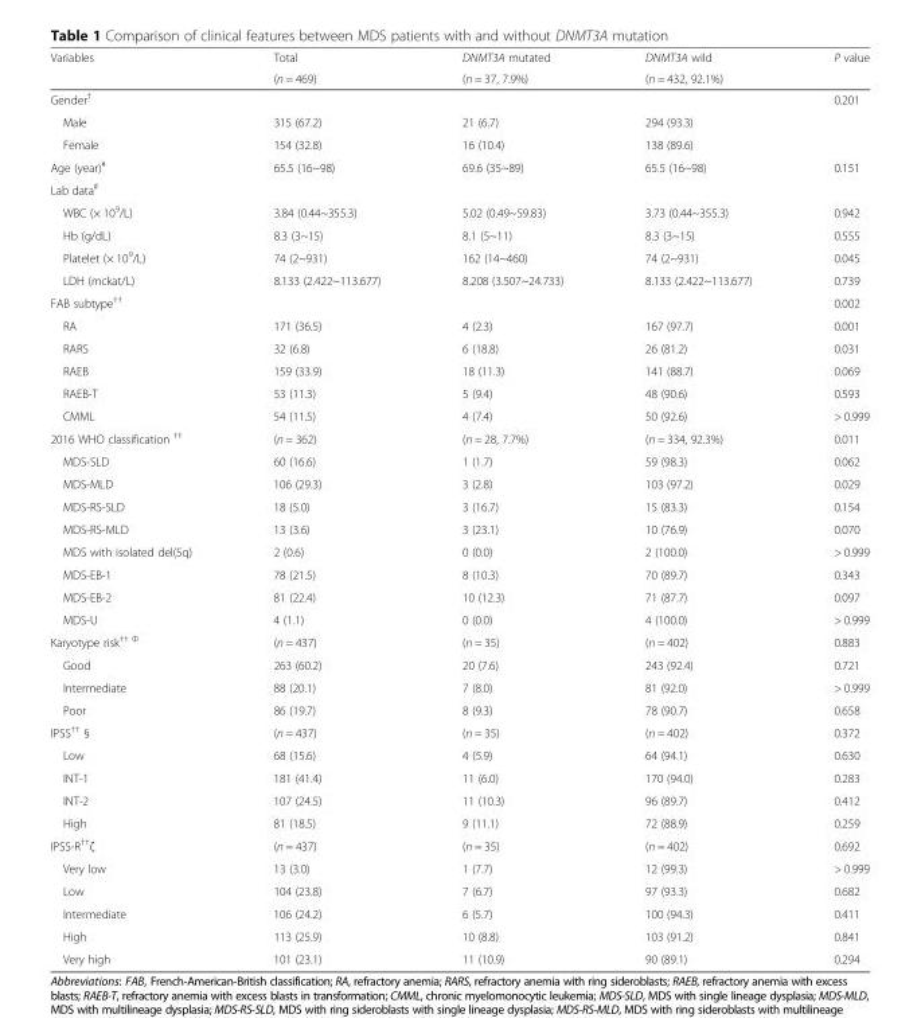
<table><thead><tr><td rowspan="2">Variables</td><td rowspan="2">Total (n = 469)</td><td rowspan="2">DNMT3A mutated (n = 37, 7.9%)</td><td rowspan="2">DNMT3A wild (n = 432, 92.1%)</td><td rowspan="2">P value</td></tr><tr></tr></thead><tbody><tr><td>Gender<sup>†</sup></td><td></td><td></td><td></td><td>0.201</td></tr><tr><td>Male</td><td>315 (67.2)</td><td>21 (6.7)</td><td>294 (93.3)</td><td></td></tr><tr><td>Female</td><td>154 (32.8)</td><td>16 (10.4)</td><td>138 (89.6)</td><td></td></tr><tr><td>Age (year)<sup>#</sup></td><td>65.5 (16~98)</td><td>69.6 (35~89)</td><td>65.5 (16~98)</td><td>0.151</td></tr><tr><td colspan="5">Lab data<sup>#</sup></td></tr><tr><td>WBC (× 10<sup>9</sup>/L)</td><td>3.84 (0.44~355.3)</td><td>5.02 (0.49~59.83)</td><td>3.73 (0.44~355.3)</td><td>0.942</td></tr><tr><td>Hb (g/dL)</td><td>8.3 (3~15)</td><td>8.1 (5~11)</td><td>8.3 (3~15)</td><td>0.555</td></tr><tr><td>Platelet (× 10<sup>9</sup>/L)</td><td>74 (2~931)</td><td>162 (14~460)</td><td>74 (2~931)</td><td>0.045</td></tr><tr><td>LDH (mckat/L)</td><td>8.133 (2.422~113.677)</td><td>8.208 (3.507~24.733)</td><td>8.133 (2.422~113.677)</td><td>0.739</td></tr><tr><td>FAB subtype<sup>††</sup></td><td></td><td></td><td></td><td>0.002</td></tr><tr><td>RA</td><td>171 (36.5)</td><td>4 (2.3)</td><td>167 (97.7)</td><td>0.001</td></tr><tr><td>RARS</td><td>32 (6.8)</td><td>6 (18.8)</td><td>26 (81.2)</td><td>0.031</td></tr><tr><td>RAEB</td><td>159 (33.9)</td><td>18 (11.3)</td><td>141 (88.7)</td><td>0.069</td></tr><tr><td>RAEB-T</td><td>53 (11.3)</td><td>5 (9.4)</td><td>48 (90.6)</td><td>0.593</td></tr><tr><td>CMML</td><td>54 (11.5)</td><td>4 (7.4)</td><td>50 (92.6)</td><td>&gt; 0.999</td></tr><tr><td>2016 WHO classification <sup>††</sup></td><td>(n = 362)</td><td>(n = 28, 7.7%)</td><td>(n = 334, 92.3%)</td><td>0.011</td></tr><tr><td>MDS-SLD</td><td>60 (16.6)</td><td>1 (1.7)</td><td>59 (98.3)</td><td>0.062</td></tr><tr><td>MDS-MLD</td><td>106 (29.3)</td><td>3 (2.8)</td><td>103 (97.2)</td><td>0.029</td></tr><tr><td>MDS-RS-SLD</td><td>18 (5.0)</td><td>3 (16.7)</td><td>15 (83.3)</td><td>0.154</td></tr><tr><td>MDS-RS-MLD</td><td>13 (3.6)</td><td>3 (23.1)</td><td>10 (76.9)</td><td>0.070</td></tr><tr><td>MDS with isolated del(5q)</td><td>2 (0.6)</td><td>0 (0.0)</td><td>2 (100.0)</td><td>&gt; 0.999</td></tr><tr><td>MDS-EB-1</td><td>78 (21.5)</td><td>8 (10.3)</td><td>70 (89.7)</td><td>0.343</td></tr><tr><td>MDS-EB-2</td><td>81 (22.4)</td><td>10 (12.3)</td><td>71 (87.7)</td><td>0.097</td></tr><tr><td>MDS-U</td><td>4 (1.1)</td><td>0 (0.0)</td><td>4 (100.0)</td><td>&gt; 0.999</td></tr><tr><td>Karyotype risk<sup>†† Φ</sup></td><td>(n = 437)</td><td>(n = 35)</td><td>(n = 402)</td><td>0.883</td></tr><tr><td>Good</td><td>263 (60.2)</td><td>20 (7.6)</td><td>243 (92.4)</td><td>0.721</td></tr><tr><td>Intermediate</td><td>88 (20.1)</td><td>7 (8.0)</td><td>81 (92.0)</td><td>&gt; 0.999</td></tr><tr><td>Poor</td><td>86 (19.7)</td><td>8 (9.3)</td><td>78 (90.7)</td><td>0.658</td></tr><tr><td>IPSS<sup>††</sup> §</td><td>(n = 437)</td><td>(n = 35)</td><td>(n = 402)</td><td>0.372</td></tr><tr><td>Low</td><td>68 (15.6)</td><td>4 (5.9)</td><td>64 (94.1)</td><td>0.630</td></tr><tr><td>INT-1</td><td>181 (41.4)</td><td>11 (6.0)</td><td>170 (94.0)</td><td>0.283</td></tr><tr><td>INT-2</td><td>107 (24.5)</td><td>11 (10.3)</td><td>96 (89.7)</td><td>0.412</td></tr><tr><td>High</td><td>81 (18.5)</td><td>9 (11.1)</td><td>72 (88.9)</td><td>0.259</td></tr><tr><td>IPSS-R<sup>††</sup>ζ</td><td>(n = 437)</td><td>(n = 35)</td><td>(n = 402)</td><td>0.692</td></tr><tr><td>Very low</td><td>13 (3.0)</td><td>1 (7.7)</td><td>12 (99.3)</td><td>&gt; 0.999</td></tr><tr><td>Low</td><td>104 (23.8)</td><td>7 (6.7)</td><td>97 (93.3)</td><td>0.682</td></tr><tr><td>Intermediate</td><td>106 (24.2)</td><td>6 (5.7)</td><td>100 (94.3)</td><td>0.411</td></tr><tr><td>High</td><td>113 (25.9)</td><td>10 (8.8)</td><td>103 (91.2)</td><td>0.841</td></tr><tr><td>Very high</td><td>101 (23.1)</td><td>11 (10.9)</td><td>90 (89.1)</td><td>0.294</td></tr></tbody></table>